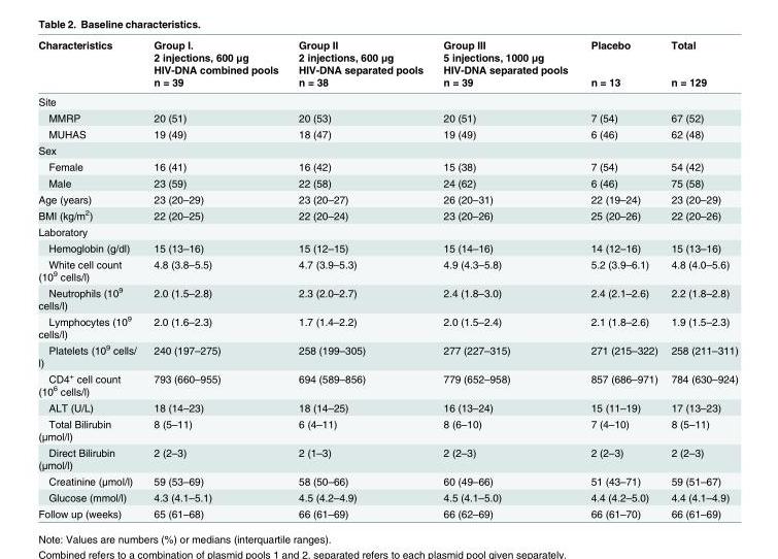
<table><thead><tr><td rowspan="3">Characteristics</td><td rowspan="3">Group I. 2 injections, 600 μg HIV-DNA combined pools n = 39</td><td rowspan="3">Group II 2 injections, 600 μg HIV-DNA separated pools n = 38</td><td rowspan="3">Group III 5 injections, 1000 μg HIV-DNA separated pools n = 39</td><td rowspan="3">Placebo n = 13</td><td rowspan="3">Total n = 129</td></tr><tr></tr><tr></tr></thead><tbody><tr><td colspan="6">Site</td></tr><tr><td>MMRP</td><td>20 (51)</td><td>20 (53)</td><td>20 (51)</td><td>7 (54)</td><td>67 (52)</td></tr><tr><td>MUHAS</td><td>19 (49)</td><td>18 (47)</td><td>19 (49)</td><td>6 (46)</td><td>62 (48)</td></tr><tr><td colspan="6">Sex</td></tr><tr><td>Female</td><td>16 (41)</td><td>16 (42)</td><td>15 (38)</td><td>7 (54)</td><td>54 (42)</td></tr><tr><td>Male</td><td>23 (59)</td><td>22 (58)</td><td>24 (62)</td><td>6 (46)</td><td>75 (58)</td></tr><tr><td>Age (years)</td><td>23 (20–29)</td><td>23 (20–27)</td><td>26 (20–31)</td><td>22 (19–24)</td><td>23 (20–29)</td></tr><tr><td>BMI (kg/m<sup>2</sup>)</td><td>22 (20–25)</td><td>22 (20–24)</td><td>23 (20–26)</td><td>25 (20–26)</td><td>22 (20–26)</td></tr><tr><td colspan="6">Laboratory</td></tr><tr><td>Hemoglobin (g/dl)</td><td>15 (13–16)</td><td>15 (12–15)</td><td>15 (14–16)</td><td>14 (12–16)</td><td>15 (13–16)</td></tr><tr><td>White cell count (10<sup>9</sup> cells/l)</td><td>4.8 (3.8–5.5)</td><td>4.7 (3.9–5.3)</td><td>4.9 (4.3–5.8)</td><td>5.2 (3.9–6.1)</td><td>4.8 (4.0–5.6)</td></tr><tr><td>Neutrophils (10<sup>9</sup> cells/l)</td><td>2.0 (1.5–2.8)</td><td>2.3 (2.0–2.7)</td><td>2.4 (1.8–3.0)</td><td>2.4 (2.1–2.6)</td><td>2.2 (1.8–2.8)</td></tr><tr><td>Lymphocytes (10<sup>9</sup> cells/l)</td><td>2.0 (1.6–2.3)</td><td>1.7 (1.4–2.2)</td><td>2.0 (1.5–2.4)</td><td>2.1 (1.8–2.6)</td><td>1.9 (1.5–2.3)</td></tr><tr><td>Platelets (10<sup>9</sup> cells/ l)</td><td>240 (197–275)</td><td>258 (199–305)</td><td>277 (227–315)</td><td>271 (215–322)</td><td>258 (211–311)</td></tr><tr><td>CD4<sup>+</sup> cell count (10<sup>6</sup> cells/l)</td><td>793 (660–955)</td><td>694 (589–856)</td><td>779 (652–958)</td><td>857 (686–971)</td><td>784 (630–924)</td></tr><tr><td>ALT (U/L)</td><td>18 (14–23)</td><td>18 (14–25)</td><td>16 (13–24)</td><td>15 (11–19)</td><td>17 (13–23)</td></tr><tr><td>Total Bilirubin (μmol/l)</td><td>8 (5–11)</td><td>6 (4–11)</td><td>8 (6–10)</td><td>7 (4–10)</td><td>8 (5–11)</td></tr><tr><td>Direct Bilirubin (μmol/l)</td><td>2 (2–3)</td><td>2 (1–3)</td><td>2 (2–3)</td><td>2 (2–3)</td><td>2 (2–3)</td></tr><tr><td>Creatinine (μmol/l)</td><td>59 (53–69)</td><td>58 (50–66)</td><td>60 (49–66)</td><td>51 (43–71)</td><td>59 (51–67)</td></tr><tr><td>Glucose (mmol/l)</td><td>4.3 (4.1–5.1)</td><td>4.5 (4.2–4.9)</td><td>4.5 (4.1–5.0)</td><td>4.4 (4.2–5.0)</td><td>4.4 (4.1–4.9)</td></tr><tr><td>Follow up (weeks)</td><td>65 (61–68)</td><td>66 (61–69)</td><td>66 (62–69)</td><td>66 (61–70)</td><td>66 (61–69)</td></tr></tbody></table>